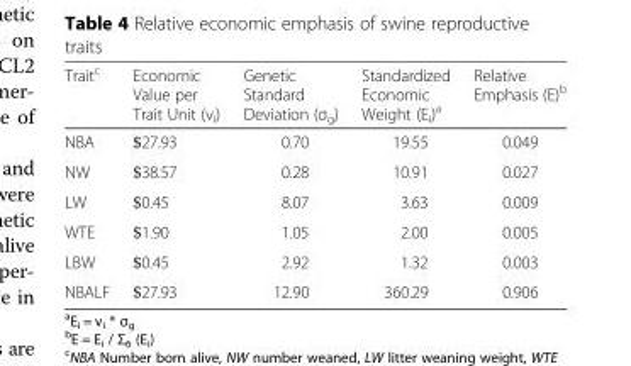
<table><thead><tr><td>Trait<sup>c</sup></td><td>Economic Value per Trait Unit (v<sub>i</sub>)</td><td>Genetic Standard Deviation (σ<sub>g</sub>)</td><td>Standardized Economic Weight (E<sub>i</sub>)<sup>a</sup></td><td>Relative Emphasis (E)<sup>b</sup></td></tr></thead><tbody><tr><td>NBA</td><td>$27.93</td><td>0.70</td><td>19.55</td><td>0.049</td></tr><tr><td>NW</td><td>$38.57</td><td>0.28</td><td>10.91</td><td>0.027</td></tr><tr><td>LW</td><td>$0.45</td><td>8.07</td><td>3.63</td><td>0.009</td></tr><tr><td>WTE</td><td>$1.90</td><td>1.05</td><td>2.00</td><td>0.005</td></tr><tr><td>LBW</td><td>$0.45</td><td>2.92</td><td>1.32</td><td>0.003</td></tr><tr><td>NBALF</td><td>$27.93</td><td>12.90</td><td>360.29</td><td>0.906</td></tr></tbody></table>